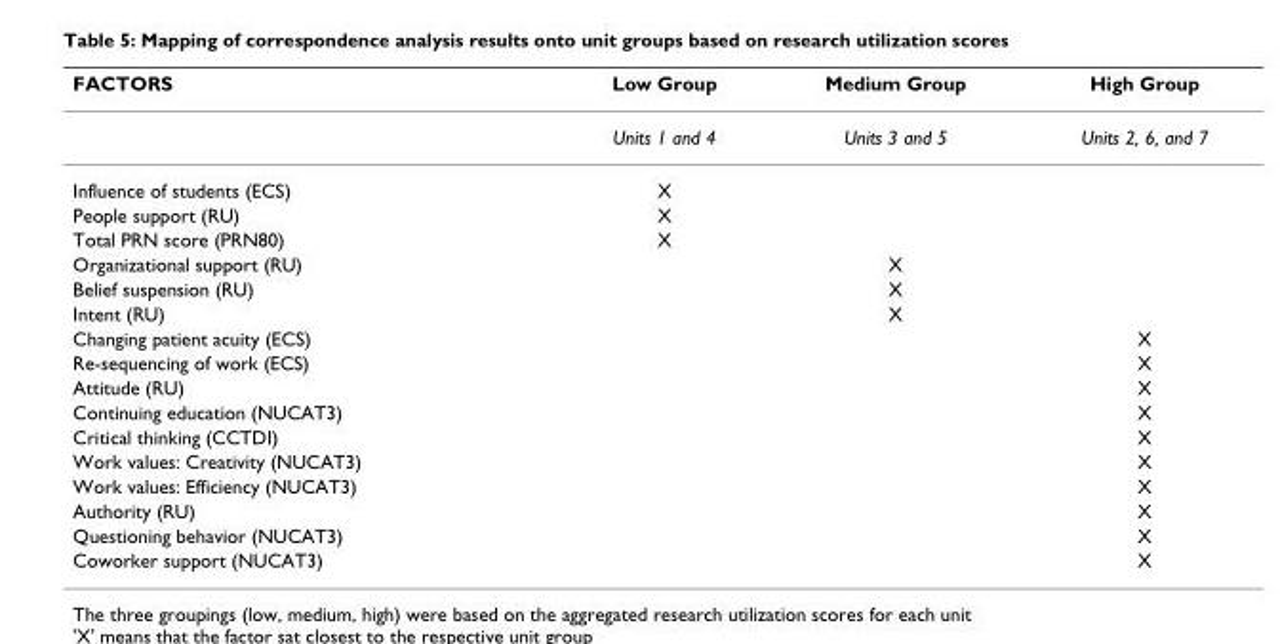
<table><thead><tr><td>FACTORS</td><td>Low Group</td><td>Medium Group</td><td>High Group</td></tr></thead><tbody><tr><td></td><td>Units 1 and 4</td><td>Units 3 and 5</td><td>Units 2, 6, and 7</td></tr><tr><td>Influence of students (ECS)</td><td>X</td><td></td><td></td></tr><tr><td>People support (RU)</td><td>X</td><td></td><td></td></tr><tr><td>Total PRN score (PRN80)</td><td>X</td><td></td><td></td></tr><tr><td>Organizational support (RU)</td><td></td><td>X</td><td></td></tr><tr><td>Belief suspension (RU)</td><td></td><td>X</td><td></td></tr><tr><td>Intent (RU)</td><td></td><td>X</td><td></td></tr><tr><td>Changing patient acuity (ECS)</td><td></td><td></td><td>X</td></tr><tr><td>Re-sequencing of work (ECS)</td><td></td><td></td><td>X</td></tr><tr><td>Attitude (RU)</td><td></td><td></td><td>X</td></tr><tr><td>Continuing education (NUCAT3)</td><td></td><td></td><td>X</td></tr><tr><td>Critical thinking (CCTDI)</td><td></td><td></td><td>X</td></tr><tr><td>Work values: Creativity (NUCAT3)</td><td></td><td></td><td>X</td></tr><tr><td>Work values: Efficiency (NUCAT3)</td><td></td><td></td><td>X</td></tr><tr><td>Authority (RU)</td><td></td><td></td><td>X</td></tr><tr><td>Questioning behavior (NUCAT3)</td><td></td><td></td><td>X</td></tr><tr><td>Coworker support (NUCAT3)</td><td></td><td></td><td>X</td></tr></tbody></table>